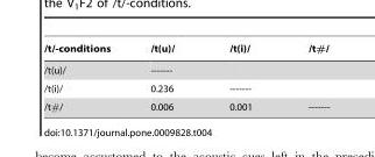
<table><thead><tr><td>/t/-conditions</td><td>/t(u)/</td><td>/t(i)/</td><td>/t#/</td></tr></thead><tbody><tr><td>/t(u)/</td><td>-------</td><td></td><td></td></tr><tr><td>/t(i)/</td><td>0.236</td><td>-------</td><td></td></tr><tr><td>/t#/</td><td>0.006</td><td>0.001</td><td>-------</td></tr></tbody></table>